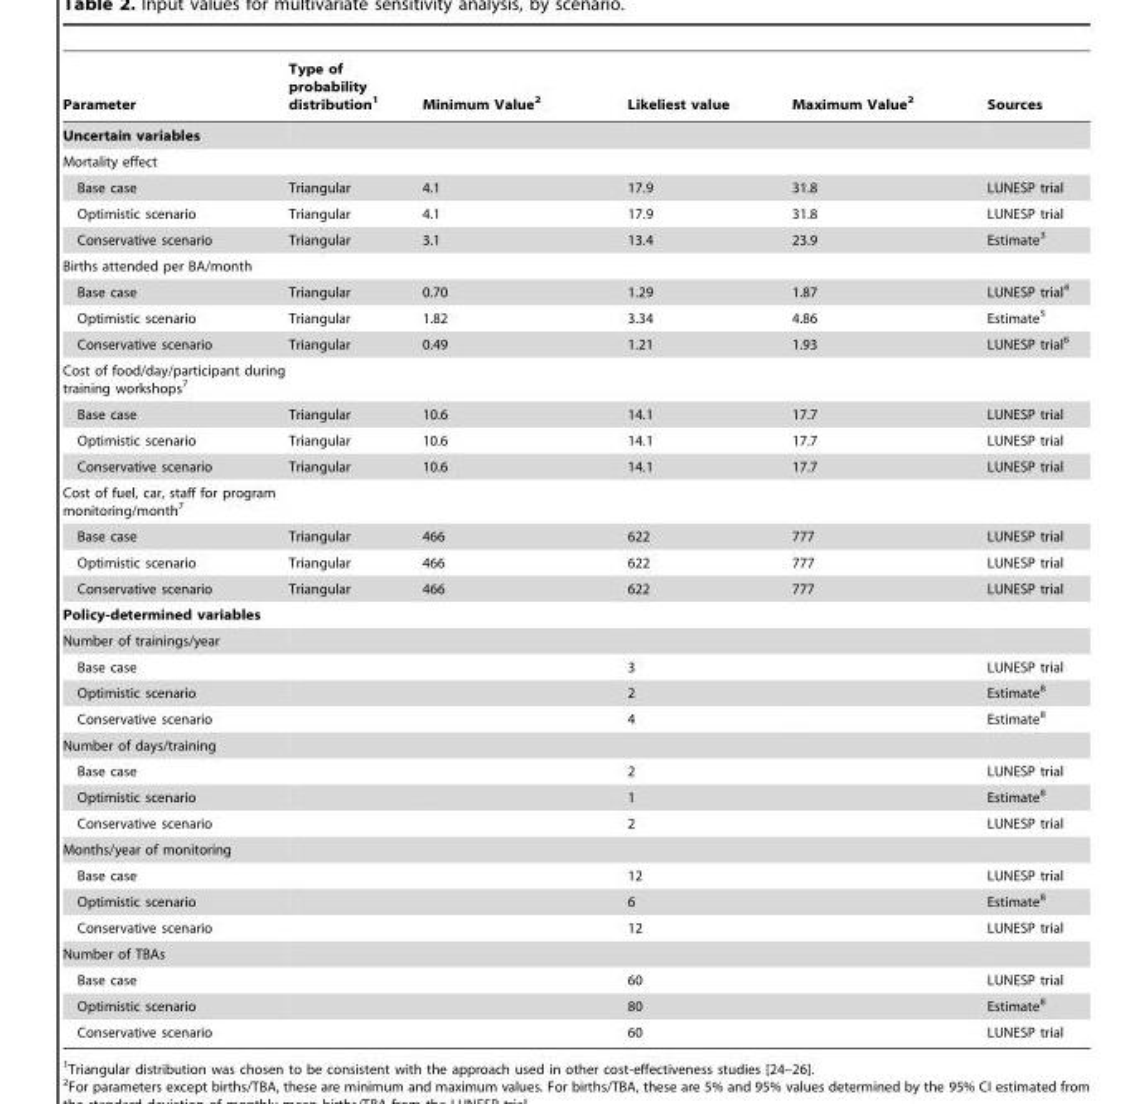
<table><thead><tr><td>Parameter</td><td>Type of probability distribution<sup>1</sup></td><td>Minimum Value<sup>2</sup></td><td>Likeliest value</td><td>Maximum Value<sup>2</sup></td><td>Sources</td></tr></thead><tbody><tr><td colspan="6">Uncertain variables</td></tr><tr><td colspan="6">Mortality effect</td></tr><tr><td>Base case</td><td>Triangular</td><td>4.1</td><td>17.9</td><td>31.8</td><td>LUNESP trial</td></tr><tr><td>Optimistic scenario</td><td>Triangular</td><td>4.1</td><td>17.9</td><td>31.8</td><td>LUNESP trial</td></tr><tr><td>Conservative scenario</td><td>Triangular</td><td>3.1</td><td>13.4</td><td>23.9</td><td>Estimate<sup>3</sup></td></tr><tr><td colspan="6">Births attended per BA/month</td></tr><tr><td>Base case</td><td>Triangular</td><td>0.70</td><td>1.29</td><td>1.87</td><td>LUNESP trial<sup>4</sup></td></tr><tr><td>Optimistic scenario</td><td>Triangular</td><td>1.82</td><td>3.34</td><td>4.86</td><td>Estimate<sup>5</sup></td></tr><tr><td>Conservative scenario</td><td>Triangular</td><td>0.49</td><td>1.21</td><td>1.93</td><td>LUNESP trial<sup>6</sup></td></tr><tr><td colspan="6">Cost of food/day/participant during training workshops<sup>7</sup></td></tr><tr><td>Base case</td><td>Triangular</td><td>10.6</td><td>14.1</td><td>17.7</td><td>LUNESP trial</td></tr><tr><td>Optimistic scenario</td><td>Triangular</td><td>10.6</td><td>14.1</td><td>17.7</td><td>LUNESP trial</td></tr><tr><td>Conservative scenario</td><td>Triangular</td><td>10.6</td><td>14.1</td><td>17.7</td><td>LUNESP trial</td></tr><tr><td colspan="6">Cost of fuel, car, staff for program monitoring/month<sup>7</sup></td></tr><tr><td>Base case</td><td>Triangular</td><td>466</td><td>622</td><td>777</td><td>LUNESP trial</td></tr><tr><td>Optimistic scenario</td><td>Triangular</td><td>466</td><td>622</td><td>777</td><td>LUNESP trial</td></tr><tr><td>Conservative scenario</td><td>Triangular</td><td>466</td><td>622</td><td>777</td><td>LUNESP trial</td></tr><tr><td colspan="6">Policy-determined variables</td></tr><tr><td colspan="6">Number of trainings/year</td></tr><tr><td>Base case</td><td></td><td></td><td>3</td><td></td><td>LUNESP trial</td></tr><tr><td>Optimistic scenario</td><td></td><td></td><td>2</td><td></td><td>Estimate<sup>8</sup></td></tr><tr><td>Conservative scenario</td><td></td><td></td><td>4</td><td></td><td>Estimate<sup>8</sup></td></tr><tr><td colspan="6">Number of days/training</td></tr><tr><td>Base case</td><td></td><td></td><td>2</td><td></td><td>LUNESP trial</td></tr><tr><td>Optimistic scenario</td><td></td><td></td><td>1</td><td></td><td>Estimate<sup>8</sup></td></tr><tr><td>Conservative scenario</td><td></td><td></td><td>2</td><td></td><td>LUNESP trial</td></tr><tr><td colspan="6">Months/year of monitoring</td></tr><tr><td>Base case</td><td></td><td></td><td>12</td><td></td><td>LUNESP trial</td></tr><tr><td>Optimistic scenario</td><td></td><td></td><td>6</td><td></td><td>Estimate<sup>8</sup></td></tr><tr><td>Conservative scenario</td><td></td><td></td><td>12</td><td></td><td>LUNESP trial</td></tr><tr><td colspan="6">Number of TBAs</td></tr><tr><td>Base case</td><td></td><td></td><td>60</td><td></td><td>LUNESP trial</td></tr><tr><td>Optimistic scenario</td><td></td><td></td><td>80</td><td></td><td>Estimate<sup>8</sup></td></tr><tr><td>Conservative scenario</td><td></td><td></td><td>60</td><td></td><td>LUNESP trial</td></tr></tbody></table>